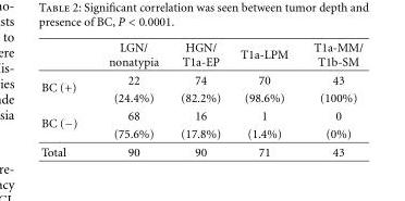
<table><thead><tr><td></td><td>LGN/ nonatypia</td><td>HGN/ T1a-EP</td><td>T1a-LPM</td><td>T1a-MM/ T1b-SM</td></tr></thead><tbody><tr><td rowspan="2">BC (+)</td><td>22</td><td>74</td><td>70</td><td>43</td></tr><tr><td>(24.4%)</td><td>(82.2%)</td><td>(98.6%)</td><td>(100%)</td></tr><tr><td rowspan="2">BC (−)</td><td>68</td><td>16</td><td>1</td><td>0</td></tr><tr><td>(75.6%)</td><td>(17.8%)</td><td>(1.4%)</td><td>(0%)</td></tr><tr><td>Total</td><td>90</td><td>90</td><td>71</td><td>43</td></tr></tbody></table>